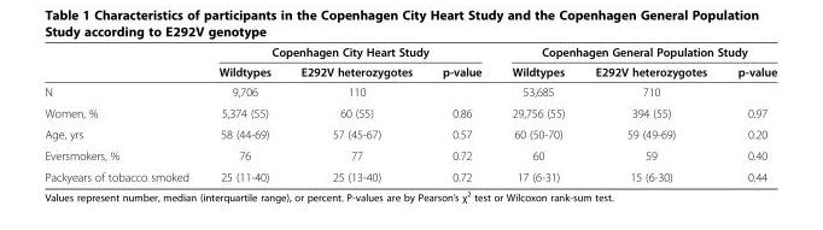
<table><thead><tr><td rowspan="2"></td><td colspan="3">Copenhagen City Heart Study</td><td colspan="3">Copenhagen General Population Study</td></tr><tr><td>Wildtypes</td><td>E292V heterozygotes</td><td>p-value</td><td>Wildtypes</td><td>E292V heterozygotes</td><td>p-value</td></tr></thead><tbody><tr><td>N</td><td>9,706</td><td>110</td><td></td><td>53,685</td><td>710</td><td></td></tr><tr><td>Women, %</td><td>5,374 (55)</td><td>60 (55)</td><td>0.86</td><td>29,756 (55)</td><td>394 (55)</td><td>0.97</td></tr><tr><td>Age, yrs</td><td>58 (44-69)</td><td>57 (45-67)</td><td>0.57</td><td>60 (50-70)</td><td>59 (49-69)</td><td>0.20</td></tr><tr><td>Eversmokers, %</td><td>76</td><td>77</td><td>0.72</td><td>60</td><td>59</td><td>0.40</td></tr><tr><td>Packyears of tobacco smoked</td><td>25 (11-40)</td><td>25 (13-40)</td><td>0.72</td><td>17 (6-31)</td><td>15 (6-30)</td><td>0.44</td></tr></tbody></table>